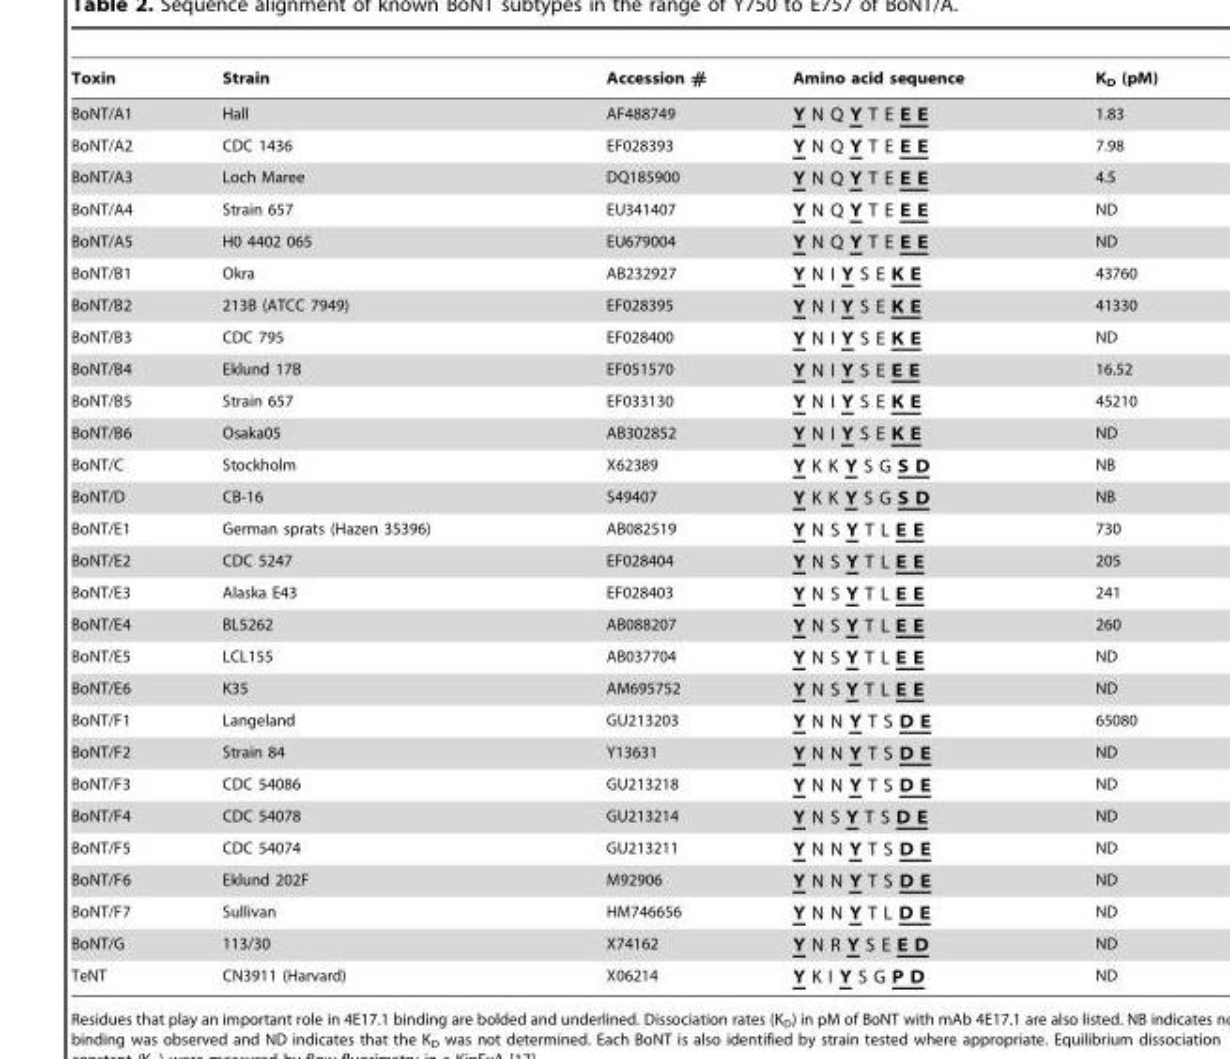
<table><thead><tr><td>Toxin</td><td>Strain</td><td>Accession #</td><td>Amino acid sequence</td><td>K<sub>D</sub> (pM)</td></tr></thead><tbody><tr><td>BoNT/A1</td><td>Hall</td><td>AF488749</td><td>Y N Q Y T E E E</td><td>1.83</td></tr><tr><td>BoNT/A2</td><td>CDC 1436</td><td>EF028393</td><td>Y N Q Y T E E E</td><td>7.98</td></tr><tr><td>BoNT/A3</td><td>Loch Maree</td><td>DQ185900</td><td>Y N Q Y T E E E</td><td>4.5</td></tr><tr><td>BoNT/A4</td><td>Strain 657</td><td>EU341407</td><td>Y N Q Y T E E E</td><td>ND</td></tr><tr><td>BoNT/A5</td><td>H0 4402 065</td><td>EU679004</td><td>Y N Q Y T E E E</td><td>ND</td></tr><tr><td>BoNT/B1</td><td>Okra</td><td>AB232927</td><td>Y N I Y S E K E</td><td>43760</td></tr><tr><td>BoNT/B2</td><td>213B (ATCC 7949)</td><td>EF028395</td><td>Y N I Y S E K E</td><td>41330</td></tr><tr><td>BoNT/B3</td><td>CDC 795</td><td>EF028400</td><td>Y N I Y S E K E</td><td>ND</td></tr><tr><td>BoNT/B4</td><td>Eklund 17B</td><td>EF051570</td><td>Y N I Y S E E E</td><td>16.52</td></tr><tr><td>BoNT/B5</td><td>Strain 657</td><td>EF033130</td><td>Y N I Y S E K E</td><td>45210</td></tr><tr><td>BoNT/B6</td><td>Osaka05</td><td>AB302852</td><td>Y N I Y S E K E</td><td>ND</td></tr><tr><td>BoNT/C</td><td>Stockholm</td><td>X62389</td><td>Y K K Y S G S D</td><td>NB</td></tr><tr><td>BoNT/D</td><td>CB-16</td><td>S49407</td><td>Y K K Y S G S D</td><td>NB</td></tr><tr><td>BoNT/E1</td><td>German sprats (Hazen 35396)</td><td>AB082519</td><td>Y N S Y T L E E</td><td>730</td></tr><tr><td>BoNT/E2</td><td>CDC 5247</td><td>EF028404</td><td>Y N S Y T L E E</td><td>205</td></tr><tr><td>BoNT/E3</td><td>Alaska E43</td><td>EF028403</td><td>Y N S Y T L E E</td><td>241</td></tr><tr><td>BoNT/E4</td><td>BL5262</td><td>AB088207</td><td>Y N S Y T L E E</td><td>260</td></tr><tr><td>BoNT/E5</td><td>LCL155</td><td>AB037704</td><td>Y N S Y T L E E</td><td>ND</td></tr><tr><td>BoNT/E6</td><td>K35</td><td>AM695752</td><td>Y N S Y T L E E</td><td>ND</td></tr><tr><td>BoNT/F1</td><td>Langeland</td><td>GU213203</td><td>Y N N Y T S D E</td><td>65080</td></tr><tr><td>BoNT/F2</td><td>Strain 84</td><td>Y13631</td><td>Y N N Y T S D E</td><td>ND</td></tr><tr><td>BoNT/F3</td><td>CDC 54086</td><td>GU213218</td><td>Y N N Y T S D E</td><td>ND</td></tr><tr><td>BoNT/F4</td><td>CDC 54078</td><td>GU213214</td><td>Y N S Y T S D E</td><td>ND</td></tr><tr><td>BoNT/F5</td><td>CDC 54074</td><td>GU213211</td><td>Y N N Y T S D E</td><td>ND</td></tr><tr><td>BoNT/F6</td><td>Eklund 202F</td><td>M92906</td><td>Y N N Y T S D E</td><td>ND</td></tr><tr><td>BoNT/F7</td><td>Sullivan</td><td>HM746656</td><td>Y N N Y T L D E</td><td>ND</td></tr><tr><td>BoNT/G</td><td>113/30</td><td>X74162</td><td>Y N R Y S E E D</td><td>ND</td></tr><tr><td>TeNT</td><td>CN3911 (Harvard)</td><td>X06214</td><td>Y K I Y S G P D</td><td>ND</td></tr></tbody></table>